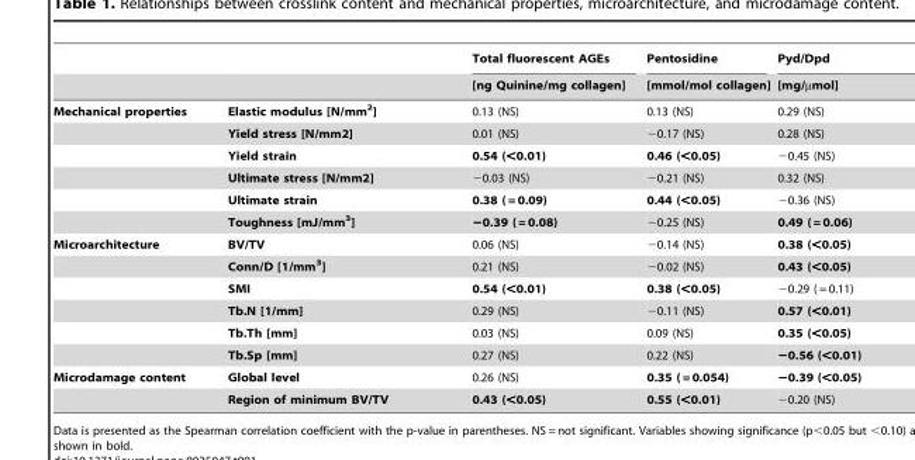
<table><thead><tr><td rowspan="2"></td><td rowspan="2"></td><td rowspan="2">Total fluorescent AGEs [ng Quinine/mg collagen]</td><td rowspan="2">Pentosidine [mmol/mol collagen]</td><td rowspan="2">Pyd/Dpd [mg/µmol]</td></tr><tr></tr></thead><tbody><tr><td rowspan="6">Mechanical properties</td><td>Elastic modulus [N/mm<sup>2</sup>]</td><td>0.13 (NS)</td><td>0.13 (NS)</td><td>0.29 (NS)</td></tr><tr><td>Yield stress [N/mm2]</td><td>0.01 (NS)</td><td>−0.17 (NS)</td><td>0.28 (NS)</td></tr><tr><td>Yield strain</td><td>0.54 (&lt;0.01)</td><td>0.46 (&lt;0.05)</td><td>−0.45 (NS)</td></tr><tr><td>Ultimate stress [N/mm2]</td><td>−0.03 (NS)</td><td>−0.21 (NS)</td><td>0.32 (NS)</td></tr><tr><td>Ultimate strain</td><td>0.38 ( = 0.09)</td><td>0.44 (&lt;0.05)</td><td>−0.36 (NS)</td></tr><tr><td>Toughness [mJ/mm<sup>3</sup>]</td><td>−0.39 ( = 0.08)</td><td>−0.25 (NS)</td><td>0.49 ( = 0.06)</td></tr><tr><td rowspan="6">Microarchitecture</td><td>BV/TV</td><td>0.06 (NS)</td><td>−0.14 (NS)</td><td>0.38 (&lt;0.05)</td></tr><tr><td>Conn/D [1/mm<sup>3</sup>]</td><td>0.21 (NS)</td><td>−0.02 (NS)</td><td>0.43 (&lt;0.05)</td></tr><tr><td>SMI</td><td>0.54 (&lt;0.01)</td><td>0.38 (&lt;0.05)</td><td>−0.29 ( = 0.11)</td></tr><tr><td>Tb.N [1/mm]</td><td>0.29 (NS)</td><td>−0.11 (NS)</td><td>0.57 (&lt;0.01)</td></tr><tr><td>Tb.Th [mm]</td><td>0.03 (NS)</td><td>0.09 (NS)</td><td>0.35 (&lt;0.05)</td></tr><tr><td>Tb.Sp [mm]</td><td>0.27 (NS)</td><td>0.22 (NS)</td><td>−0.56 (&lt;0.01)</td></tr><tr><td rowspan="2">Microdamage content</td><td>Global level</td><td>0.26 (NS)</td><td>0.35 ( = 0.054)</td><td>−0.39 (&lt;0.05)</td></tr><tr><td>Region of minimum BV/TV</td><td>0.43 (&lt;0.05)</td><td>0.55 (&lt;0.01)</td><td>−0.20 (NS)</td></tr></tbody></table>